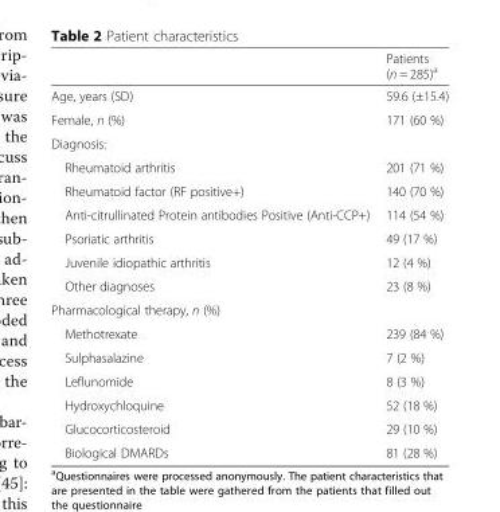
<table><thead><tr><td></td><td>Patients (n = 285)<sup>a</sup></td></tr></thead><tbody><tr><td>Age, years (SD)</td><td>59.6 (±15.4)</td></tr><tr><td>Female, n (%)</td><td>171 (60 %)</td></tr><tr><td colspan="2">Diagnosis:</td></tr><tr><td>Rheumatoid arthritis</td><td>201 (71 %)</td></tr><tr><td>Rheumatoid factor (RF positive+)</td><td>140 (70 %)</td></tr><tr><td>Anti-citrullinated Protein antibodies Positive (Anti-CCP+)</td><td>114 (54 %)</td></tr><tr><td>Psoriatic arthritis</td><td>49 (17 %)</td></tr><tr><td>Juvenile idiopathic arthritis</td><td>12 (4 %)</td></tr><tr><td>Other diagnoses</td><td>23 (8 %)</td></tr><tr><td colspan="2">Pharmacological therapy, n (%)</td></tr><tr><td>Methotrexate</td><td>239 (84 %)</td></tr><tr><td>Sulphasalazine</td><td>7 (2 %)</td></tr><tr><td>Leflunomide</td><td>8 (3 %)</td></tr><tr><td>Hydroxychloquine</td><td>52 (18 %)</td></tr><tr><td>Glucocorticosteroid</td><td>29 (10 %)</td></tr><tr><td>Biological DMARDs</td><td>81 (28 %)</td></tr></tbody></table>